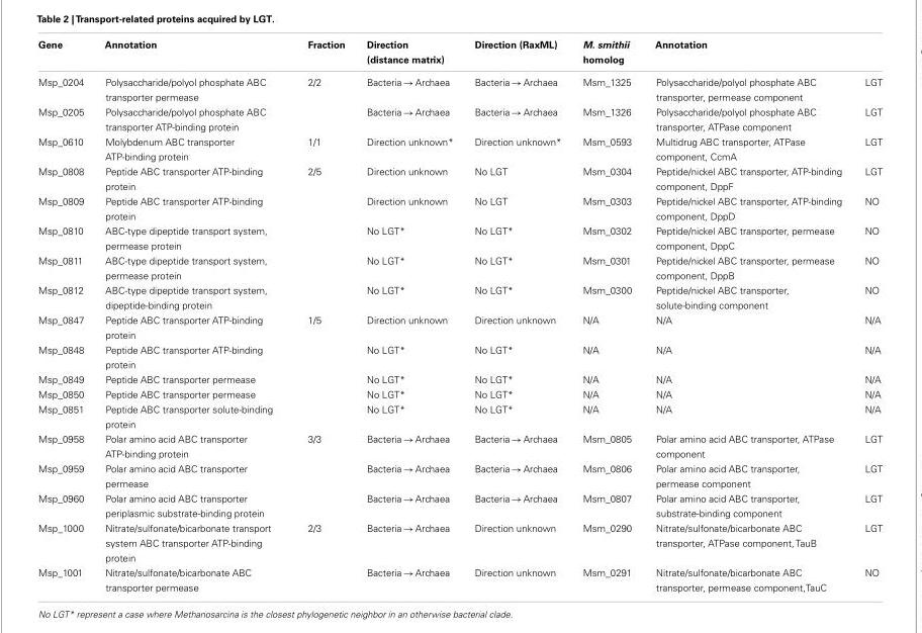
<table><thead><tr><td>Gene</td><td>Annotation</td><td>Fraction</td><td>Direction (distance matrix)</td><td>Direction (RaxML)</td><td>M. smithii homolog</td><td>Annotation</td><td></td></tr></thead><tbody><tr><td>Msp_0204</td><td>Polysaccharide/polyol phosphate ABC transporter permease</td><td>2/2</td><td>Bacteria →Archaea</td><td>Bacteria →Archaea</td><td>Msm_1325</td><td>Polysaccharide/polyol phosphate ABC transporter, permease component</td><td>LGT</td></tr><tr><td>Msp_0205</td><td>Polysaccharide/polyol phosphate ABC transporter ATP-binding protein</td><td></td><td>Bacteria →Archaea</td><td>Bacteria →Archaea</td><td>Msm_1326</td><td>Polysaccharide/polyol phosphate ABC transporter, ATPase component</td><td>LGT</td></tr><tr><td>Msp_0610</td><td>Molybdenum ABC transporter ATP-binding protein</td><td>1/1</td><td>Direction unknown*</td><td>Direction unknown*</td><td>Msm_0593</td><td>Multidrug ABC transporter, ATPase component, CcmA</td><td>LGT</td></tr><tr><td>Msp_0808</td><td>Peptide ABC transporter ATP-binding protein</td><td>2/5</td><td>Direction unknown</td><td>No LGT</td><td>Msm_0304</td><td>Peptide/nickel ABC transporter, ATP-binding component, DppF</td><td>LGT</td></tr><tr><td>Msp_0809</td><td>Peptide ABC transporter ATP-binding protein</td><td></td><td>Direction unknown</td><td>No LGT</td><td>Msm_0303</td><td>Peptide/nickel ABC transporter, ATP-binding component, DppD</td><td>NO</td></tr><tr><td>Msp_0810</td><td>ABC-type dipeptide transport system, permease protein</td><td></td><td>No LGT*</td><td>No LGT*</td><td>Msm_0302</td><td>Peptide/nickel ABC transporter, permease component, DppC</td><td>NO</td></tr><tr><td>Msp_0811</td><td>ABC-type dipeptide transport system, permease protein</td><td></td><td>No LGT*</td><td>No LGT*</td><td>Msm_0301</td><td>Peptide/nickel ABC transporter, permease component, DppB</td><td>NO</td></tr><tr><td>Msp_0812</td><td>ABC-type dipeptide transport system, dipeptide-binding protein</td><td></td><td>No LGT*</td><td>No LGT*</td><td>Msm_0300</td><td>Peptide/nickel ABC transporter, solute-binding component</td><td>NO</td></tr><tr><td>Msp_0847</td><td>Peptide ABC transporter ATP-binding protein</td><td>1/5</td><td>Direction unknown</td><td>Direction unknown</td><td>N/A</td><td>N/A</td><td>N/A</td></tr><tr><td>Msp_0848</td><td>Peptide ABC transporter ATP-binding protein</td><td></td><td>No LGT*</td><td>No LGT*</td><td>N/A</td><td>N/A</td><td>N/A</td></tr><tr><td>Msp_0849</td><td>Peptide ABC transporter permease</td><td></td><td>No LGT*</td><td>No LGT*</td><td>N/A</td><td>N/A</td><td>N/A</td></tr><tr><td>Msp_0850</td><td>Peptide ABC transporter permease</td><td></td><td>No LGT*</td><td>No LGT*</td><td>N/A</td><td>N/A</td><td>N/A</td></tr><tr><td>Msp_0851</td><td>Peptide ABC transporter solute-binding protein</td><td></td><td>No LGT*</td><td>No LGT*</td><td>N/A</td><td>N/A</td><td>N/A</td></tr><tr><td>Msp_0958</td><td>Polar amino acid ABC transporter ATP-binding protein</td><td>3/3</td><td>Bacteria →Archaea</td><td>Bacteria →Archaea</td><td>Msm_0805</td><td>Polar amino acid ABC transporter, ATPase component</td><td>LGT</td></tr><tr><td>Msp_0959</td><td>Polar amino acid ABC transporter permease</td><td></td><td>Bacteria →Archaea</td><td>Bacteria →Archaea</td><td>Msm_0806</td><td>Polar amino acid ABC transporter, permease component</td><td>LGT</td></tr><tr><td>Msp_0960</td><td>Polar amino acid ABC transporter periplasmic substrate-binding protein</td><td></td><td>Bacteria →Archaea</td><td>Bacteria →Archaea</td><td>Msm_0807</td><td>Polar amino acid ABC transporter, substrate-binding component</td><td>LGT</td></tr><tr><td>Msp_1000</td><td>Nitrate/sulfonate/bicarbonate transport system ABC transporter ATP-binding protein</td><td>2/3</td><td>Bacteria →Archaea</td><td>Direction unknown</td><td>Msm_0290</td><td>Nitrate/sulfonate/bicarbonate ABC transporter, ATPase component, TauB</td><td>LGT</td></tr><tr><td>Msp_1001</td><td>Nitrate/sulfonate/bicarbonate ABC transporter permease</td><td></td><td>Bacteria →Archaea</td><td>Direction unknown</td><td>Msm_0291</td><td>Nitrate/sulfonate/bicarbonate ABC transporter, permease component,TauC</td><td>NO</td></tr></tbody></table>